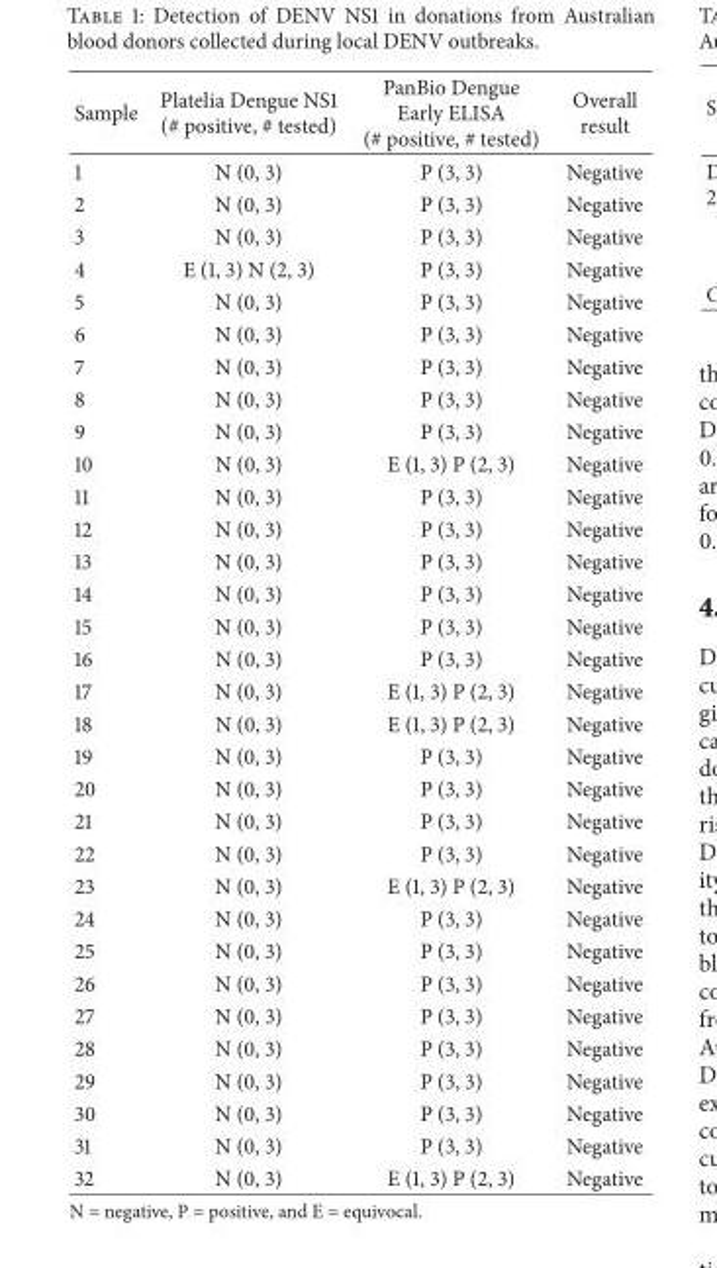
<table><thead><tr><td>Sample</td><td>Platelia Dengue NS1 (# positive, # tested)</td><td>PanBio Dengue Early ELISA (# positive, # tested)</td><td>Overall result</td></tr></thead><tbody><tr><td>1</td><td>N (0, 3)</td><td>P (3, 3)</td><td>Negative</td></tr><tr><td>2</td><td>N (0, 3)</td><td>P (3, 3)</td><td>Negative</td></tr><tr><td>3</td><td>N (0, 3)</td><td>P (3, 3)</td><td>Negative</td></tr><tr><td>4</td><td>E (1, 3) N (2, 3)</td><td>P (3, 3)</td><td>Negative</td></tr><tr><td>5</td><td>N (0, 3)</td><td>P (3, 3)</td><td>Negative</td></tr><tr><td>6</td><td>N (0, 3)</td><td>P (3, 3)</td><td>Negative</td></tr><tr><td>7</td><td>N (0, 3)</td><td>P (3, 3)</td><td>Negative</td></tr><tr><td>8</td><td>N (0, 3)</td><td>P (3, 3)</td><td>Negative</td></tr><tr><td>9</td><td>N (0, 3)</td><td>P (3, 3)</td><td>Negative</td></tr><tr><td>10</td><td>N (0, 3)</td><td>E (1, 3) P (2, 3)</td><td>Negative</td></tr><tr><td>11</td><td>N (0, 3)</td><td>P (3, 3)</td><td>Negative</td></tr><tr><td>12</td><td>N (0, 3)</td><td>P (3, 3)</td><td>Negative</td></tr><tr><td>13</td><td>N (0, 3)</td><td>P (3, 3)</td><td>Negative</td></tr><tr><td>14</td><td>N (0, 3)</td><td>P (3, 3)</td><td>Negative</td></tr><tr><td>15</td><td>N (0, 3)</td><td>P (3, 3)</td><td>Negative</td></tr><tr><td>16</td><td>N (0, 3)</td><td>P (3, 3)</td><td>Negative</td></tr><tr><td>17</td><td>N (0, 3)</td><td>E (1, 3) P (2, 3)</td><td>Negative</td></tr><tr><td>18</td><td>N (0, 3)</td><td>E (1, 3) P (2, 3)</td><td>Negative</td></tr><tr><td>19</td><td>N (0, 3)</td><td>P (3, 3)</td><td>Negative</td></tr><tr><td>20</td><td>N (0, 3)</td><td>P (3, 3)</td><td>Negative</td></tr><tr><td>21</td><td>N (0, 3)</td><td>P (3, 3)</td><td>Negative</td></tr><tr><td>22</td><td>N (0, 3)</td><td>P (3, 3)</td><td>Negative</td></tr><tr><td>23</td><td>N (0, 3)</td><td>E (1, 3) P (2, 3)</td><td>Negative</td></tr><tr><td>24</td><td>N (0, 3)</td><td>P (3, 3)</td><td>Negative</td></tr><tr><td>25</td><td>N (0, 3)</td><td>P (3, 3)</td><td>Negative</td></tr><tr><td>26</td><td>N (0, 3)</td><td>P (3, 3)</td><td>Negative</td></tr><tr><td>27</td><td>N (0, 3)</td><td>P (3, 3)</td><td>Negative</td></tr><tr><td>28</td><td>N (0, 3)</td><td>P (3, 3)</td><td>Negative</td></tr><tr><td>29</td><td>N (0, 3)</td><td>P (3, 3)</td><td>Negative</td></tr><tr><td>30</td><td>N (0, 3)</td><td>P (3, 3)</td><td>Negative</td></tr><tr><td>31</td><td>N (0, 3)</td><td>P (3, 3)</td><td>Negative</td></tr><tr><td>32</td><td>N (0, 3)</td><td>E (1, 3) P (2, 3)</td><td>Negative</td></tr></tbody></table>